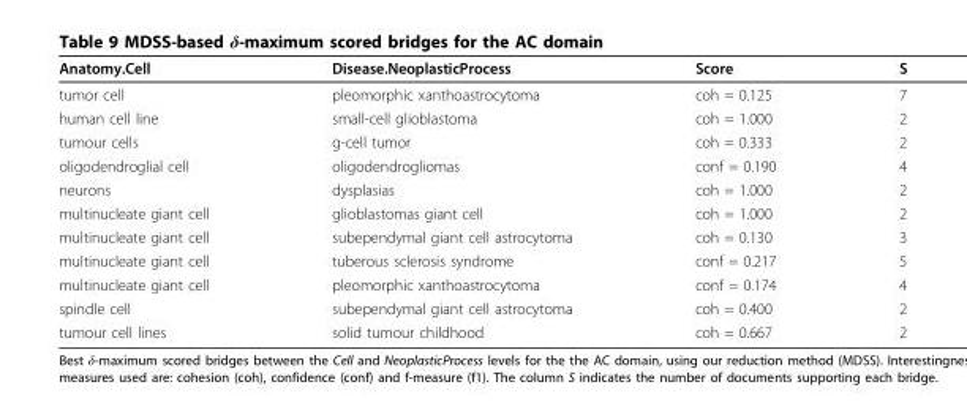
<table><thead><tr><td>Anatomy.Cell</td><td>Disease.NeoplasticProcess</td><td>Score</td><td>S</td></tr></thead><tbody><tr><td>tumor cell</td><td>pleomorphic xanthoastrocytoma</td><td>coh = 0.125</td><td>7</td></tr><tr><td>human cell line</td><td>small-cell glioblastoma</td><td>coh = 1.000</td><td>2</td></tr><tr><td>tumour cells</td><td>g-cell tumor</td><td>coh = 0.333</td><td>2</td></tr><tr><td>oligodendroglial cell</td><td>oligodendrogliomas</td><td>conf = 0.190</td><td>4</td></tr><tr><td>neurons</td><td>dysplasias</td><td>coh = 1.000</td><td>2</td></tr><tr><td>multinucleate giant cell</td><td>glioblastomas giant cell</td><td>coh = 1.000</td><td>2</td></tr><tr><td>multinucleate giant cell</td><td>subependymal giant cell astrocytoma</td><td>coh = 0.130</td><td>3</td></tr><tr><td>multinucleate giant cell</td><td>tuberous sclerosis syndrome</td><td>conf = 0.217</td><td>5</td></tr><tr><td>multinucleate giant cell</td><td>pleomorphic xanthoastrocytoma</td><td>conf = 0.174</td><td>4</td></tr><tr><td>spindle cell</td><td>subependymal giant cell astrocytoma</td><td>coh = 0.400</td><td>2</td></tr><tr><td>tumour cell lines</td><td>solid tumour childhood</td><td>coh = 0.667</td><td>2</td></tr></tbody></table>